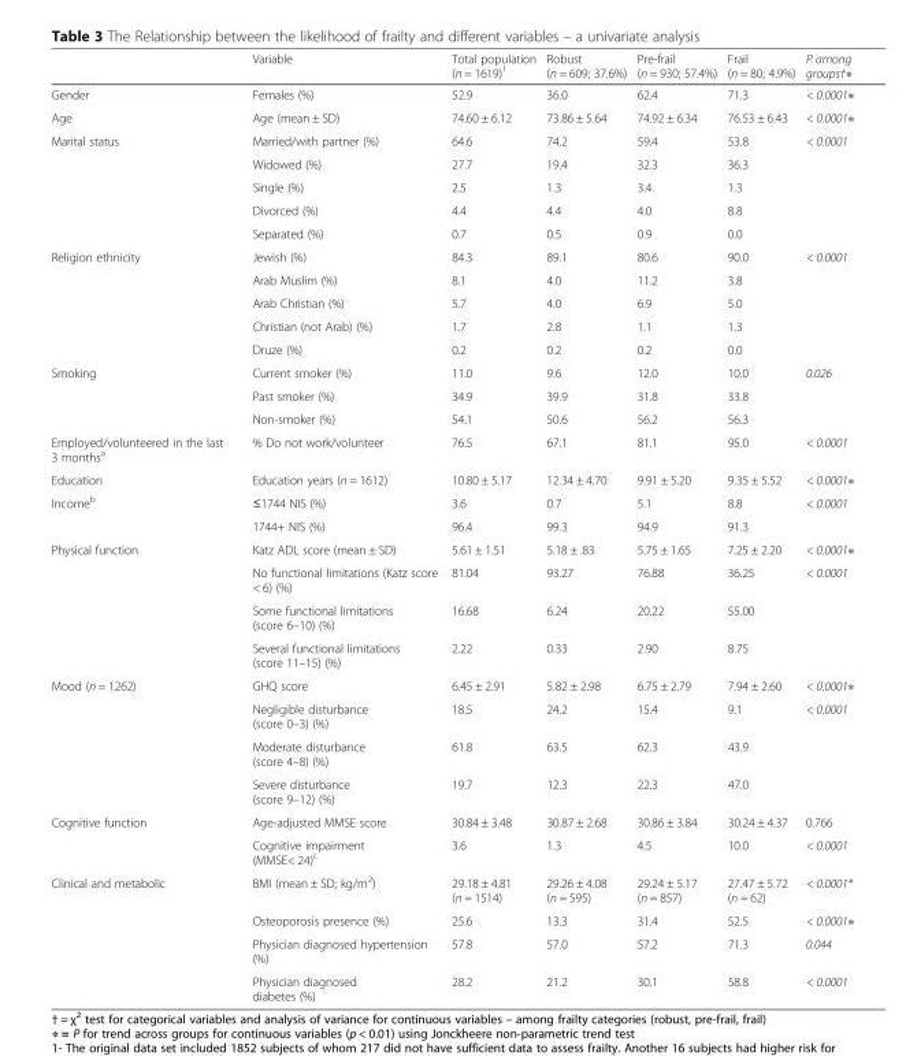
<table><thead><tr><td></td><td>Variable</td><td>Total population (n = 1619)<sup>1</sup></td><td>Robust (n = 609; 37.6%)</td><td>Pre-frail (n = 930; 57.4%)</td><td>Frail (n = 80; 4.9%)</td><td>P among groups†∗</td></tr></thead><tbody><tr><td>Gender</td><td>Females (%)</td><td>52.9</td><td>36.0</td><td>62.4</td><td>71.3</td><td>&lt; 0.0001∗</td></tr><tr><td>Age</td><td>Age (mean ± SD)</td><td>74.60 ± 6.12</td><td>73.86 ± 5.64</td><td>74.92 ± 6.34</td><td>76.53 ± 6.43</td><td>&lt; 0.0001∗</td></tr><tr><td rowspan="5">Marital status</td><td>Married/with partner (%)</td><td>64.6</td><td>74.2</td><td>59.4</td><td>53.8</td><td rowspan="5">&lt; 0.0001</td></tr><tr><td>Widowed (%)</td><td>27.7</td><td>19.4</td><td>32.3</td><td>36.3</td></tr><tr><td>Single (%)</td><td>2.5</td><td>1.3</td><td>3.4</td><td>1.3</td></tr><tr><td>Divorced (%)</td><td>4.4</td><td>4.4</td><td>4.0</td><td>8.8</td></tr><tr><td>Separated (%)</td><td>0.7</td><td>0.5</td><td>0.9</td><td>0.0</td></tr><tr><td rowspan="5">Religion ethnicity</td><td>Jewish (%)</td><td>84.3</td><td>89.1</td><td>80.6</td><td>90.0</td><td rowspan="5">&lt; 0.0001</td></tr><tr><td>Arab Muslim (%)</td><td>8.1</td><td>4.0</td><td>11.2</td><td>3.8</td></tr><tr><td>Arab Christian (%)</td><td>5.7</td><td>4.0</td><td>6.9</td><td>5.0</td></tr><tr><td>Christian (not Arab) (%)</td><td>1.7</td><td>2.8</td><td>1.1</td><td>1.3</td></tr><tr><td>Druze (%)</td><td>0.2</td><td>0.2</td><td>0.2</td><td>0.0</td></tr><tr><td rowspan="3">Smoking</td><td>Current smoker (%)</td><td>11.0</td><td>9.6</td><td>12.0</td><td>10.0</td><td rowspan="3">0.026</td></tr><tr><td>Past smoker (%)</td><td>34.9</td><td>39.9</td><td>31.8</td><td>33.8</td></tr><tr><td>Non-smoker (%)</td><td>54.1</td><td>50.6</td><td>56.2</td><td>56.3</td></tr><tr><td>Employed/volunteered in the last 3 months<sup>a</sup></td><td>% Do not work/volunteer</td><td>76.5</td><td>67.1</td><td>81.1</td><td>95.0</td><td>&lt; 0.0001</td></tr><tr><td>Education</td><td>Education years (n = 1612)</td><td>10.80 ± 5.17</td><td>12.34 ± 4.70</td><td>9.91 ± 5.20</td><td>9.35 ± 5.52</td><td>&lt; 0.0001∗</td></tr><tr><td rowspan="2">Income<sup>b</sup></td><td>≤1744 NIS (%)</td><td>3.6</td><td>0.7</td><td>5.1</td><td>8.8</td><td rowspan="2">&lt; 0.0001</td></tr><tr><td>1744+ NIS (%)</td><td>96.4</td><td>99.3</td><td>94.9</td><td>91.3</td></tr><tr><td rowspan="4">Physical function</td><td>Katz ADL score (mean ± SD)</td><td>5.61 ± 1.51</td><td>5.18 ± .83</td><td>5.75 ± 1.65</td><td>7.25 ± 2.20</td><td>&lt; 0.0001∗</td></tr><tr><td>No functional limitations (Katz score &lt; 6) (%)</td><td>81.04</td><td>93.27</td><td>76.88</td><td>36.25</td><td rowspan="3">&lt; 0.0001</td></tr><tr><td>Some functional limitations (score 6–10) (%)</td><td>16.68</td><td>6.24</td><td>20.22</td><td>55.00</td></tr><tr><td>Several functional limitations (score 11–15) (%)</td><td>2.22</td><td>0.33</td><td>2.90</td><td>8.75</td></tr><tr><td rowspan="4">Mood (n = 1262)</td><td>GHQ score</td><td>6.45 ± 2.91</td><td>5.82 ± 2.98</td><td>6.75 ± 2.79</td><td>7.94 ± 2.60</td><td>&lt; 0.0001∗</td></tr><tr><td>Negligible disturbance (score 0–3) (%)</td><td>18.5</td><td>24.2</td><td>15.4</td><td>9.1</td><td rowspan="3">&lt; 0.0001</td></tr><tr><td>Moderate disturbance (score 4–8) (%)</td><td>61.8</td><td>63.5</td><td>62.3</td><td>43.9</td></tr><tr><td>Severe disturbance (score 9–12) (%)</td><td>19.7</td><td>12.3</td><td>22.3</td><td>47.0</td></tr><tr><td rowspan="2">Cognitive function</td><td>Age-adjusted MMSE score</td><td>30.84 ± 3.48</td><td>30.87 ± 2.68</td><td>30.86 ± 3.84</td><td>30.24 ± 4.37</td><td>0.766</td></tr><tr><td>Cognitive impairment (MMSE&lt; 24)<sup>c</sup></td><td>3.6</td><td>1.3</td><td>4.5</td><td>10.0</td><td>&lt; 0.0001</td></tr><tr><td rowspan="4">Clinical and metabolic</td><td>BMI (mean ± SD; kg/m<sup>2</sup>)</td><td>29.18 ± 4.81 (n = 1514)</td><td>29.26 ± 4.08 (n = 595)</td><td>29.24 ± 5.17 (n = 857)</td><td>27.47 ± 5.72 (n = 62)</td><td>&lt; 0.0001*</td></tr><tr><td>Osteoporosis presence (%)</td><td>25.6</td><td>13.3</td><td>31.4</td><td>52.5</td><td>&lt; 0.0001∗</td></tr><tr><td>Physician diagnosed hypertension (%)</td><td>57.8</td><td>57.0</td><td>57.2</td><td>71.3</td><td>0.044</td></tr><tr><td>Physician diagnosed diabetes (%)</td><td>28.2</td><td>21.2</td><td>30.1</td><td>58.8</td><td>&lt; 0.0001</td></tr></tbody></table>